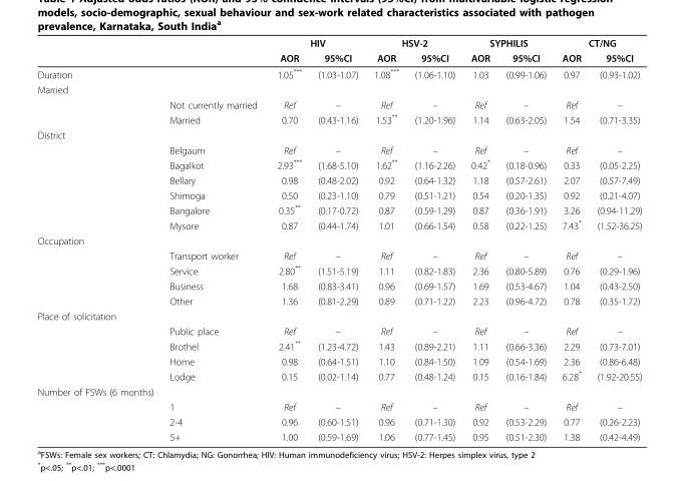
<table><thead><tr><td rowspan="2"></td><td rowspan="2"></td><td colspan="2">HIV</td><td colspan="2">HSV-2</td><td colspan="2">SYPHILIS</td><td colspan="2">CT/NG</td></tr><tr><td>AOR</td><td>95%CI</td><td>AOR</td><td>95%CI</td><td>AOR</td><td>95%CI</td><td>AOR</td><td>95%CI</td></tr></thead><tbody><tr><td>Duration</td><td></td><td>1.05***</td><td>(1.03-1.07)</td><td>1.08***</td><td>(1.06-1.10)</td><td>1.03</td><td>(0.99-1.06)</td><td>0.97</td><td>(0.93-1.02)</td></tr><tr><td colspan="10">Married</td></tr><tr><td></td><td>Not currently married</td><td>Ref</td><td>–</td><td>Ref</td><td>–</td><td>Ref</td><td>–</td><td>Ref</td><td>–</td></tr><tr><td></td><td>Married</td><td>0.70</td><td>(0.43-1.16)</td><td>1.53**</td><td>(1.20-1.96)</td><td>1.14</td><td>(0.63-2.05)</td><td>1.54</td><td>(0.71-3.35)</td></tr><tr><td colspan="10">District</td></tr><tr><td></td><td>Belgaum</td><td>Ref</td><td>–</td><td>Ref</td><td>–</td><td>Ref</td><td>–</td><td>Ref</td><td>–</td></tr><tr><td></td><td>Bagalkot</td><td>2.93***</td><td>(1.68-5.10)</td><td>1.62**</td><td>(1.16-2.26)</td><td>0.42*</td><td>(0.18-0.96)</td><td>0.33</td><td>(0.05-2.25)</td></tr><tr><td></td><td>Bellary</td><td>0.98</td><td>(0.48-2.02)</td><td>0.92</td><td>(0.64-1.32)</td><td>1.18</td><td>(0.57-2.61)</td><td>2.07</td><td>(0.57-7.49)</td></tr><tr><td></td><td>Shimoga</td><td>0.50</td><td>(0.23-1.10)</td><td>0.79</td><td>(0.51-1.21)</td><td>0.54</td><td>(0.20-1.35)</td><td>0.92</td><td>(0.21-4.07)</td></tr><tr><td></td><td>Bangalore</td><td>0.35**</td><td>(0.17-0.72)</td><td>0.87</td><td>(0.59-1.29)</td><td>0.87</td><td>(0.36-1.91)</td><td>3.26</td><td>(0.94-11.29)</td></tr><tr><td></td><td>Mysore</td><td>0.87</td><td>(0.44-1.74)</td><td>1.01</td><td>(0.66-1.54)</td><td>0.58</td><td>(0.22-1.25)</td><td>7.43*</td><td>(1.52-36.25)</td></tr><tr><td colspan="10">Occupation</td></tr><tr><td></td><td>Transport worker</td><td>Ref</td><td>–</td><td>Ref</td><td>–</td><td>Ref</td><td>–</td><td>Ref</td><td>–</td></tr><tr><td></td><td>Service</td><td>2.80**</td><td>(1.51-5.19)</td><td>1.11</td><td>(0.82-1.83)</td><td>2.36</td><td>(0.80-5.89)</td><td>0.76</td><td>(0.29-1.96)</td></tr><tr><td></td><td>Business</td><td>1.68</td><td>(0.83-3.41)</td><td>0.96</td><td>(0.69-1.57)</td><td>1.69</td><td>(0.53-4.67)</td><td>1.04</td><td>(0.43-2.50)</td></tr><tr><td></td><td>Other</td><td>1.36</td><td>(0.81-2.29)</td><td>0.89</td><td>(0.71-1.22)</td><td>2.23</td><td>(0.96-4.72)</td><td>0.78</td><td>(0.35-1.72)</td></tr><tr><td colspan="10">Place of solicitation</td></tr><tr><td></td><td>Public place</td><td>Ref</td><td>–</td><td>Ref</td><td>–</td><td>Ref</td><td>–</td><td>Ref</td><td>–</td></tr><tr><td></td><td>Brothel</td><td>2.41**</td><td>(1.23-4.72)</td><td>1.43</td><td>(0.89-2.21)</td><td>1.11</td><td>(0.66-3.36)</td><td>2.29</td><td>(0.73-7.01)</td></tr><tr><td></td><td>Home</td><td>0.98</td><td>(0.64-1.51)</td><td>1.10</td><td>(0.84-1.50)</td><td>1.09</td><td>(0.54-1.69)</td><td>2.36</td><td>(0.86-6.48)</td></tr><tr><td></td><td>Lodge</td><td>0.15</td><td>(0.02-1.14)</td><td>0.77</td><td>(0.48-1.24)</td><td>0.15</td><td>(0.16-1.84)</td><td>6.28*</td><td>(1.92-20.55)</td></tr><tr><td colspan="10">Number of FSWs (6 months)</td></tr><tr><td></td><td>1</td><td>Ref</td><td>–</td><td>Ref</td><td>–</td><td>Ref</td><td>–</td><td>Ref</td><td>–</td></tr><tr><td></td><td>2-4</td><td>0.96</td><td>(0.60-1.51)</td><td>0.96</td><td>(0.71-1.30)</td><td>0.92</td><td>(0.53-2.29)</td><td>0.77</td><td>(0.26-2.23)</td></tr><tr><td></td><td>5+</td><td>1.00</td><td>(0.59-1.69)</td><td>1.06</td><td>(0.77-1.45)</td><td>0.95</td><td>(0.51-2.30)</td><td>1.38</td><td>(0.42-4.49)</td></tr></tbody></table>